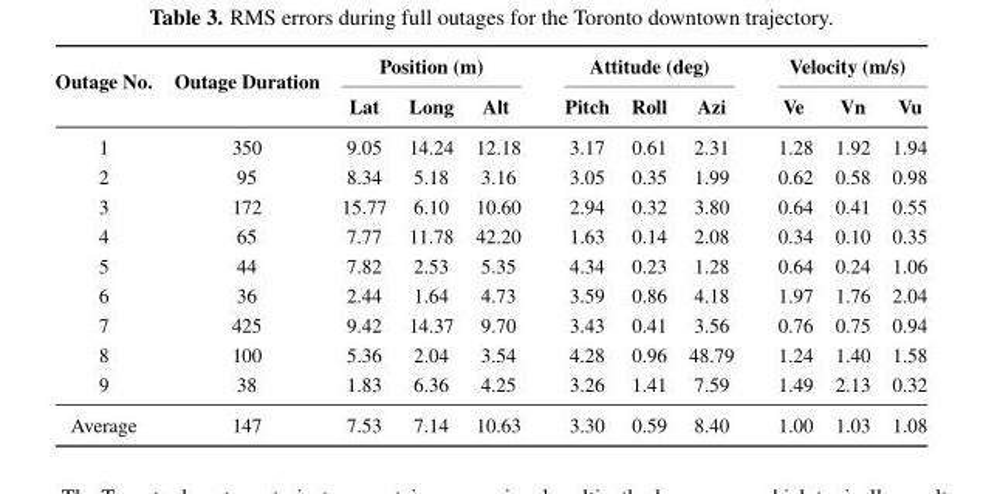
<table><thead><tr><td rowspan="2">Outage No.</td><td rowspan="2">Outage Duration</td><td colspan="3">Position (m)</td><td colspan="3">Attitude (deg)</td><td colspan="3">Velocity (m/s)</td></tr><tr><td>Lat</td><td>Long</td><td>Alt</td><td>Pitch</td><td>Roll</td><td>Azi</td><td>Ve</td><td>Vn</td><td>Vu</td></tr></thead><tbody><tr><td>1</td><td>350</td><td>9.05</td><td>14.24</td><td>12.18</td><td>3.17</td><td>0.61</td><td>2.31</td><td>1.28</td><td>1.92</td><td>1.94</td></tr><tr><td>2</td><td>95</td><td>8.34</td><td>5.18</td><td>3.16</td><td>3.05</td><td>0.35</td><td>1.99</td><td>0.62</td><td>0.58</td><td>0.98</td></tr><tr><td>3</td><td>172</td><td>15.77</td><td>6.10</td><td>10.60</td><td>2.94</td><td>0.32</td><td>3.80</td><td>0.64</td><td>0.41</td><td>0.55</td></tr><tr><td>4</td><td>65</td><td>7.77</td><td>11.78</td><td>42.20</td><td>1.63</td><td>0.14</td><td>2.08</td><td>0.34</td><td>0.10</td><td>0.35</td></tr><tr><td>5</td><td>44</td><td>7.82</td><td>2.53</td><td>5.35</td><td>4.34</td><td>0.23</td><td>1.28</td><td>0.64</td><td>0.24</td><td>1.06</td></tr><tr><td>6</td><td>36</td><td>2.44</td><td>1.64</td><td>4.73</td><td>3.59</td><td>0.86</td><td>4.18</td><td>1.97</td><td>1.76</td><td>2.04</td></tr><tr><td>7</td><td>425</td><td>9.42</td><td>14.37</td><td>9.70</td><td>3.43</td><td>0.41</td><td>3.56</td><td>0.76</td><td>0.75</td><td>0.94</td></tr><tr><td>8</td><td>100</td><td>5.36</td><td>2.04</td><td>3.54</td><td>4.28</td><td>0.96</td><td>48.79</td><td>1.24</td><td>1.40</td><td>1.58</td></tr><tr><td>9</td><td>38</td><td>1.83</td><td>6.36</td><td>4.25</td><td>3.26</td><td>1.41</td><td>7.59</td><td>1.49</td><td>2.13</td><td>0.32</td></tr><tr><td>Average</td><td>147</td><td>7.53</td><td>7.14</td><td>10.63</td><td>3.30</td><td>0.59</td><td>8.40</td><td>1.00</td><td>1.03</td><td>1.08</td></tr></tbody></table>